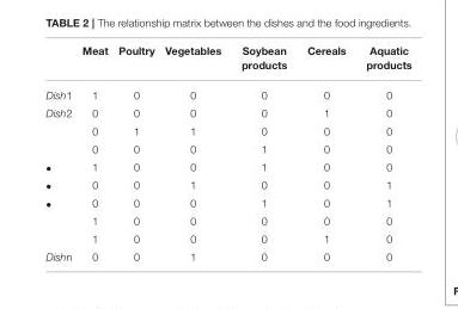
<table><thead><tr><td></td><td>Meat</td><td>Poultry</td><td>Vegetables</td><td>Soybean products</td><td>Cereals</td><td>Aquatic products</td></tr></thead><tbody><tr><td>Dish1</td><td>1</td><td>0</td><td>0</td><td>0</td><td>0</td><td>0</td></tr><tr><td rowspan="3">Dish2</td><td>0</td><td>0</td><td>0</td><td>0</td><td>1</td><td>0</td></tr><tr><td>0</td><td>1</td><td>1</td><td>0</td><td>0</td><td>0</td></tr><tr><td>0</td><td>0</td><td>0</td><td>1</td><td>0</td><td>0</td></tr><tr><td>•</td><td>1</td><td>0</td><td>0</td><td>1</td><td>0</td><td>0</td></tr><tr><td>•</td><td>0</td><td>0</td><td>1</td><td>0</td><td>0</td><td>1</td></tr><tr><td rowspan="3">•</td><td>0</td><td>0</td><td>0</td><td>1</td><td>0</td><td>1</td></tr><tr><td>1</td><td>0</td><td>0</td><td>0</td><td>0</td><td>0</td></tr><tr><td>1</td><td>0</td><td>0</td><td>0</td><td>1</td><td>0</td></tr><tr><td>Dishn</td><td>0</td><td>0</td><td>1</td><td>0</td><td>0</td><td>0</td></tr></tbody></table>